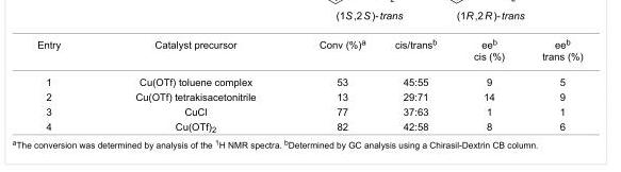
<table><tbody><tr><td>Entry</td><td>Catalyst precursor</td><td>Conv (%)<sup>a</sup></td><td>cis/trans<sup>b</sup></td><td>ee<sup>b</sup> cis (%)</td><td>ee<sup>b</sup> trans (%)</td></tr><tr><td>1</td><td>Cu(OTf) toluene complex</td><td>53</td><td>45:55</td><td>9</td><td>5</td></tr><tr><td>2</td><td>Cu(OTf) tetrakisacetonitrile</td><td>13</td><td>29:71</td><td>14</td><td>9</td></tr><tr><td>3</td><td>CuCl</td><td>77</td><td>37:63</td><td>1</td><td>1</td></tr><tr><td>4</td><td>Cu(OTf)<sub>2</sub></td><td>82</td><td>42:58</td><td>8</td><td>6</td></tr></tbody></table>